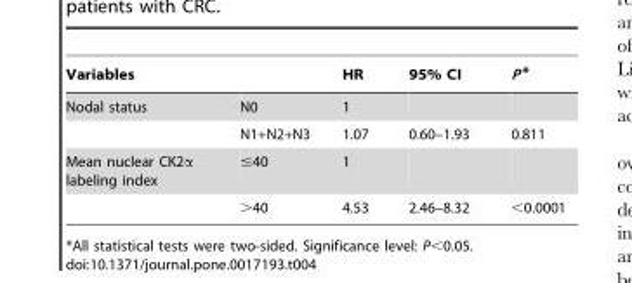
<table><thead><tr><td>Variables</td><td></td><td>HR</td><td>95% CI</td><td>P*</td></tr></thead><tbody><tr><td rowspan="2">Nodal status</td><td>N0</td><td>1</td><td></td><td></td></tr><tr><td>N1+N2+N3</td><td>1.07</td><td>0.60–1.93</td><td>0.811</td></tr><tr><td rowspan="2">Mean nuclear CK2α labeling index</td><td>≤40</td><td>1</td><td></td><td></td></tr><tr><td>&gt;40</td><td>4.53</td><td>2.46–8.32</td><td>&lt;0.0001</td></tr></tbody></table>